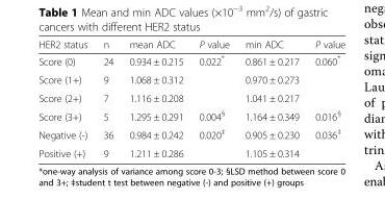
<table><thead><tr><td>HER2 status</td><td>n</td><td>mean ADC</td><td>P value</td><td>min ADC</td><td>P value</td></tr></thead><tbody><tr><td>Score (0)</td><td>24</td><td>0.934 ± 0.215</td><td>0.022*</td><td>0.861 ± 0.217</td><td>0.060*</td></tr><tr><td>Score (1+)</td><td>9</td><td>1.068 ± 0.312</td><td></td><td>0.970 ± 0.273</td><td></td></tr><tr><td>Score (2+)</td><td>7</td><td>1.116 ± 0.208</td><td></td><td>1.041 ± 0.217</td><td></td></tr><tr><td>Score (3+)</td><td>5</td><td>1.295 ± 0.291</td><td>0.004<sup>§</sup></td><td>1.164 ± 0.349</td><td>0.016<sup>§</sup></td></tr><tr><td>Negative (-)</td><td>36</td><td>0.984 ± 0.242</td><td>0.020<sup>‡</sup></td><td>0.905 ± 0.230</td><td>0.036<sup>‡</sup></td></tr><tr><td>Positive (+)</td><td>9</td><td>1.211 ± 0.286</td><td></td><td>1.105 ± 0.314</td><td></td></tr></tbody></table>